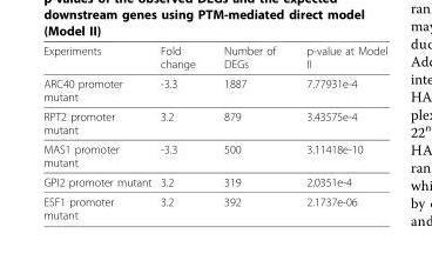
<table><thead><tr><td>Experiments</td><td>Fold change</td><td>Number of DEGs</td><td>p-value at Model II</td></tr></thead><tbody><tr><td>ARC40 promoter mutant</td><td>-3.3</td><td>1887</td><td>7.77931e-4</td></tr><tr><td>RPT2 promoter mutant</td><td>3.2</td><td>879</td><td>3.43575e-4</td></tr><tr><td>MAS1 promoter mutant</td><td>-3.3</td><td>500</td><td>3.11418e-10</td></tr><tr><td>GPI2 promoter mutant</td><td>3.2</td><td>319</td><td>2.0351e-4</td></tr><tr><td>ESF1 promoter mutant</td><td>3.2</td><td>392</td><td>2.1737e-06</td></tr></tbody></table>